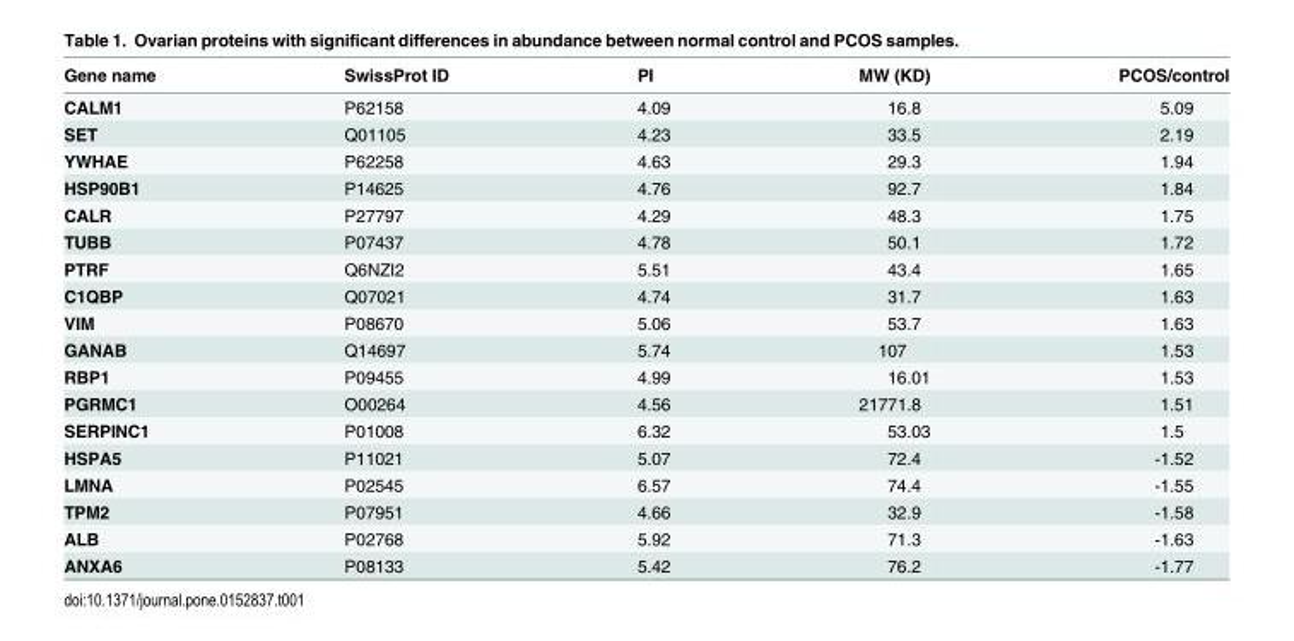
<table><thead><tr><td>Gene name</td><td>SwissProt ID</td><td>PI</td><td>MW (KD)</td><td>PCOS/control</td></tr></thead><tbody><tr><td>CALM1</td><td>P62158</td><td>4.09</td><td>16.8</td><td>5.09</td></tr><tr><td>SET</td><td>Q01105</td><td>4.23</td><td>33.5</td><td>2.19</td></tr><tr><td>YWHAE</td><td>P62258</td><td>4.63</td><td>29.3</td><td>1.94</td></tr><tr><td>HSP90B1</td><td>P14625</td><td>4.76</td><td>92.7</td><td>1.84</td></tr><tr><td>CALR</td><td>P27797</td><td>4.29</td><td>48.3</td><td>1.75</td></tr><tr><td>TUBB</td><td>P07437</td><td>4.78</td><td>50.1</td><td>1.72</td></tr><tr><td>PTRF</td><td>Q6NZI2</td><td>5.51</td><td>43.4</td><td>1.65</td></tr><tr><td>C1QBP</td><td>Q07021</td><td>4.74</td><td>31.7</td><td>1.63</td></tr><tr><td>VIM</td><td>P08670</td><td>5.06</td><td>53.7</td><td>1.63</td></tr><tr><td>GANAB</td><td>Q14697</td><td>5.74</td><td>107</td><td>1.53</td></tr><tr><td>RBP1</td><td>P09455</td><td>4.99</td><td>16.01</td><td>1.53</td></tr><tr><td>PGRMC1</td><td>O00264</td><td>4.56</td><td>21771.8</td><td>1.51</td></tr><tr><td>SERPINC1</td><td>P01008</td><td>6.32</td><td>53.03</td><td>1.5</td></tr><tr><td>HSPA5</td><td>P11021</td><td>5.07</td><td>72.4</td><td>-1.52</td></tr><tr><td>LMNA</td><td>P02545</td><td>6.57</td><td>74.4</td><td>-1.55</td></tr><tr><td>TPM2</td><td>P07951</td><td>4.66</td><td>32.9</td><td>-1.58</td></tr><tr><td>ALB</td><td>P02768</td><td>5.92</td><td>71.3</td><td>-1.63</td></tr><tr><td>ANXA6</td><td>P08133</td><td>5.42</td><td>76.2</td><td>-1.77</td></tr></tbody></table>